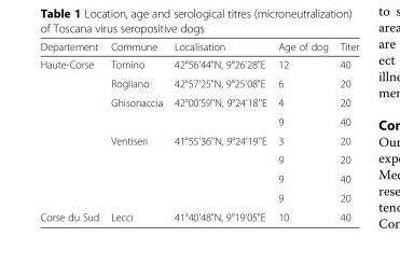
<table><thead><tr><td>Departement</td><td>Commune</td><td>Localisation</td><td>Age of dog</td><td>Titer</td></tr></thead><tbody><tr><td rowspan="8">Haute-Corse</td><td>Tomino</td><td>42°56&#x27;44&quot;N, 9°26&#x27;28&quot;E</td><td>12</td><td>40</td></tr><tr><td>Rogliano</td><td>42°57&#x27;25&quot;N, 9°25&#x27;08&quot;E</td><td>6</td><td>20</td></tr><tr><td rowspan="2">Ghisonaccia</td><td rowspan="2">42°00&#x27;59&#x27;&#x27;N, 9°24&#x27;18&#x27;&#x27;E</td><td>4</td><td>20</td></tr><tr><td>9</td><td>40</td></tr><tr><td rowspan="4">Ventiseri</td><td rowspan="4">41°55&#x27;36&#x27;&#x27;N, 9°24&#x27;19&#x27;&#x27;E</td><td>3</td><td>20</td></tr><tr><td>9</td><td>20</td></tr><tr><td>9</td><td>40</td></tr><tr><td>9</td><td>20</td></tr><tr><td>Corse du Sud</td><td>Lecci</td><td>41°40&#x27;48&quot;N, 9°19&#x27;05&quot;E</td><td>10</td><td>40</td></tr></tbody></table>